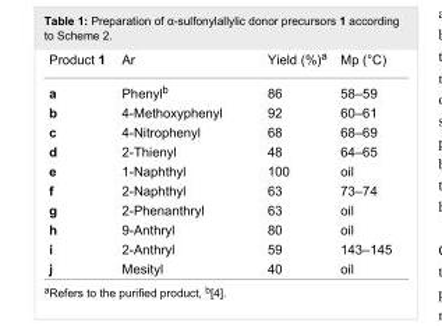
<table><tbody><tr><td>Product 1</td><td>Ar</td><td>Yield (%)<sup>a</sup></td><td>Mp (°C)</td></tr><tr><td>a</td><td>Phenyl<sup>b</sup></td><td>86</td><td>58–59</td></tr><tr><td>b</td><td>4-Methoxyphenyl</td><td>92</td><td>60–61</td></tr><tr><td>c</td><td>4-Nitrophenyl</td><td>68</td><td>68–69</td></tr><tr><td>d</td><td>2-Thienyl</td><td>48</td><td>64–65</td></tr><tr><td>e</td><td>1-Naphthyl</td><td>100</td><td>oil</td></tr><tr><td>f</td><td>2-Naphthyl</td><td>63</td><td>73–74</td></tr><tr><td>g</td><td>2-Phenanthryl</td><td>63</td><td>oil</td></tr><tr><td>h</td><td>9-Anthryl</td><td>80</td><td>oil</td></tr><tr><td>i</td><td>2-Anthryl</td><td>59</td><td>143–145</td></tr><tr><td>j</td><td>Mesityl</td><td>40</td><td>oil</td></tr></tbody></table>